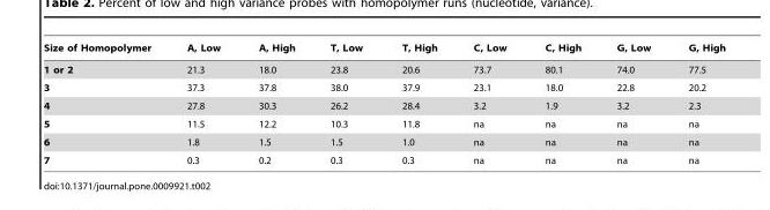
<table><thead><tr><td>Size of Homopolymer</td><td>A, Low</td><td>A, High</td><td>T, Low</td><td>T, High</td><td>C, Low</td><td>C, High</td><td>G, Low</td><td>G, High</td></tr></thead><tbody><tr><td>1 or 2</td><td>21.3</td><td>18.0</td><td>23.8</td><td>20.6</td><td>73.7</td><td>80.1</td><td>74.0</td><td>77.5</td></tr><tr><td>3</td><td>37.3</td><td>37.8</td><td>38.0</td><td>37.9</td><td>23.1</td><td>18.0</td><td>22.8</td><td>20.2</td></tr><tr><td>4</td><td>27.8</td><td>30.3</td><td>26.2</td><td>28.4</td><td>3.2</td><td>1.9</td><td>3.2</td><td>2.3</td></tr><tr><td>5</td><td>11.5</td><td>12.2</td><td>10.3</td><td>11.8</td><td>na</td><td>na</td><td>na</td><td>na</td></tr><tr><td>6</td><td>1.8</td><td>1.5</td><td>1.5</td><td>1.0</td><td>na</td><td>na</td><td>na</td><td>na</td></tr><tr><td>7</td><td>0.3</td><td>0.2</td><td>0.3</td><td>0.3</td><td>na</td><td>na</td><td>na</td><td>na</td></tr></tbody></table>